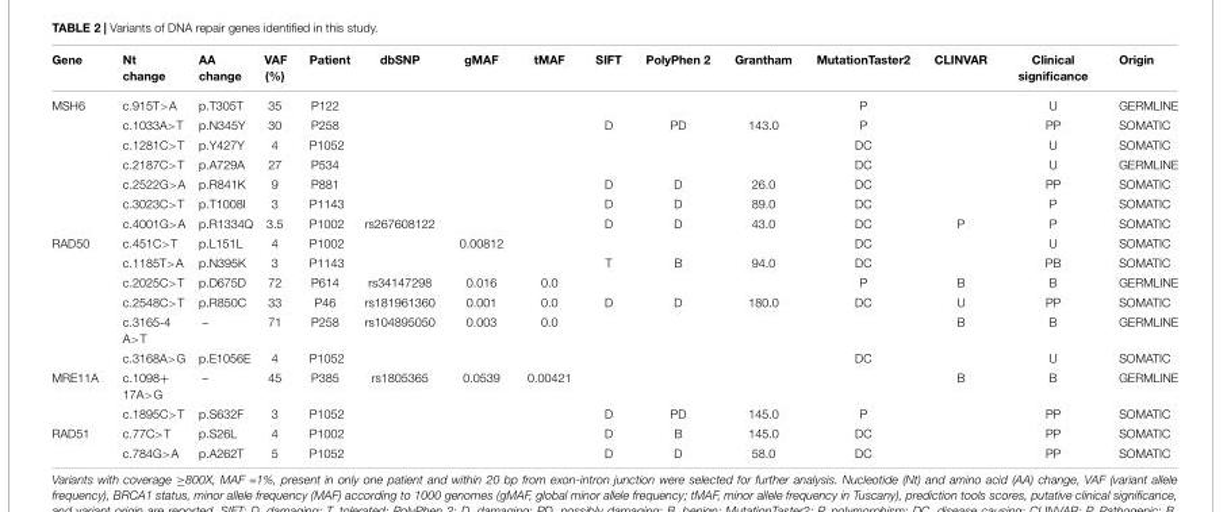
<table><thead><tr><td>Gene</td><td>Nt change</td><td>AA change</td><td>VAF (%)</td><td>Patient</td><td>dbSNP</td><td>gMAF</td><td>tMAF</td><td>SIFT</td><td>PolyPhen 2</td><td>Grantham</td><td>MutationTaster2</td><td>CLINVAR</td><td>Clinical significance</td><td>Origin</td></tr></thead><tbody><tr><td rowspan="7">MSH6</td><td>c.915T&gt;A</td><td>p.T305T</td><td>35</td><td>P122</td><td></td><td></td><td></td><td></td><td></td><td></td><td>P</td><td></td><td>U</td><td>GERMLINE</td></tr><tr><td>c.1033A&gt;T</td><td>p.N345Y</td><td>30</td><td>P258</td><td></td><td></td><td></td><td>D</td><td>PD</td><td>143.0</td><td>P</td><td></td><td>PP</td><td>SOMATIC</td></tr><tr><td>c.1281C&gt;T</td><td>p.Y427Y</td><td>4</td><td>P1052</td><td></td><td></td><td></td><td></td><td></td><td></td><td>DC</td><td></td><td>U</td><td>SOMATIC</td></tr><tr><td>c.2187C&gt;T</td><td>p.A729A</td><td>27</td><td>P534</td><td></td><td></td><td></td><td></td><td></td><td></td><td>DC</td><td></td><td>U</td><td>GERMLINE</td></tr><tr><td>c.2522G&gt;A</td><td>p.R841K</td><td>9</td><td>P881</td><td></td><td></td><td></td><td>D</td><td>D</td><td>26.0</td><td>DC</td><td></td><td>PP</td><td>SOMATIC</td></tr><tr><td>c.3023C&gt;T</td><td>p.T1008I</td><td>3</td><td>P1143</td><td></td><td></td><td></td><td>D</td><td>D</td><td>89.0</td><td>DC</td><td></td><td>P</td><td>SOMATIC</td></tr><tr><td>c.4001G&gt;A</td><td>p.R1334Q</td><td>3.5</td><td>P1002</td><td>rs267608122</td><td></td><td></td><td>D</td><td>D</td><td>43.0</td><td>DC</td><td>P</td><td>P</td><td>SOMATIC</td></tr><tr><td rowspan="6">RAD50</td><td>c.451C&gt;T</td><td>p.L151L</td><td>4</td><td>P1002</td><td></td><td>0.00812</td><td></td><td></td><td></td><td></td><td>DC</td><td></td><td>U</td><td>SOMATIC</td></tr><tr><td>c.1185T&gt;A</td><td>p.N395K</td><td>3</td><td>P1143</td><td></td><td></td><td></td><td>T</td><td>B</td><td>94.0</td><td>DC</td><td></td><td>PB</td><td>SOMATIC</td></tr><tr><td>c.2025C&gt;T</td><td>p.D675D</td><td>72</td><td>P614</td><td>rs34147298</td><td>0.016</td><td>0.0</td><td></td><td></td><td></td><td>P</td><td>B</td><td>B</td><td>GERMLINE</td></tr><tr><td>c.2548C&gt;T</td><td>p.R850C</td><td>33</td><td>P46</td><td>rs181961360</td><td>0.001</td><td>0.0</td><td>D</td><td>D</td><td>180.0</td><td>DC</td><td>U</td><td>PP</td><td>SOMATIC</td></tr><tr><td>c.3165-4 A&gt;T</td><td>–</td><td>71</td><td>P258</td><td>rs104895050</td><td>0.003</td><td>0.0</td><td></td><td></td><td></td><td></td><td>B</td><td>B</td><td>GERMLINE</td></tr><tr><td>c.3168A&gt;G</td><td>p.E1056E</td><td>4</td><td>P1052</td><td></td><td></td><td></td><td></td><td></td><td></td><td>DC</td><td></td><td>U</td><td>SOMATIC</td></tr><tr><td rowspan="2">MRE11A</td><td>c.1098+ 17A&gt;G</td><td>–</td><td>45</td><td>P385</td><td>rs1805365</td><td>0.0539</td><td>0.00421</td><td></td><td></td><td></td><td></td><td>B</td><td>B</td><td>GERMLINE</td></tr><tr><td>c.1895C&gt;T</td><td>p.S632F</td><td>3</td><td>P1052</td><td></td><td></td><td></td><td>D</td><td>PD</td><td>145.0</td><td>P</td><td></td><td>PP</td><td>SOMATIC</td></tr><tr><td rowspan="2">RAD51</td><td>c.77C&gt;T</td><td>p.S26L</td><td>4</td><td>P1002</td><td></td><td></td><td></td><td>D</td><td>B</td><td>145.0</td><td>DC</td><td></td><td>PP</td><td>SOMATIC</td></tr><tr><td>c.784G&gt;A</td><td>p.A262T</td><td>5</td><td>P1052</td><td></td><td></td><td></td><td>D</td><td>D</td><td>58.0</td><td>DC</td><td></td><td>PP</td><td>SOMATIC</td></tr></tbody></table>